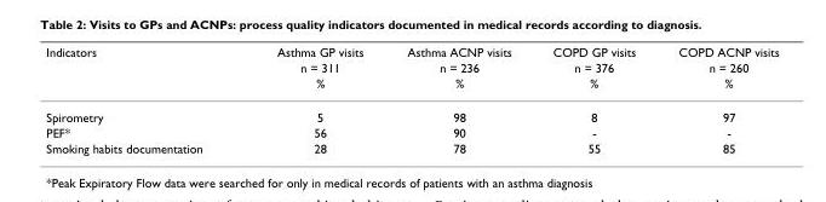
<table><thead><tr><td rowspan="3">Indicators</td><td rowspan="3">Asthma GP visits n = 311 %</td><td rowspan="3">Asthma ACNP visits n = 236 %</td><td rowspan="3">COPD GP visits n = 376 %</td><td rowspan="3">COPD ACNP visits n = 260 %</td></tr><tr></tr><tr></tr></thead><tbody><tr><td>Spirometry</td><td>5</td><td>98</td><td>8</td><td>97</td></tr><tr><td>PEF*</td><td>56</td><td>90</td><td>-</td><td>-</td></tr><tr><td>Smoking habits documentation</td><td>28</td><td>78</td><td>55</td><td>85</td></tr></tbody></table>